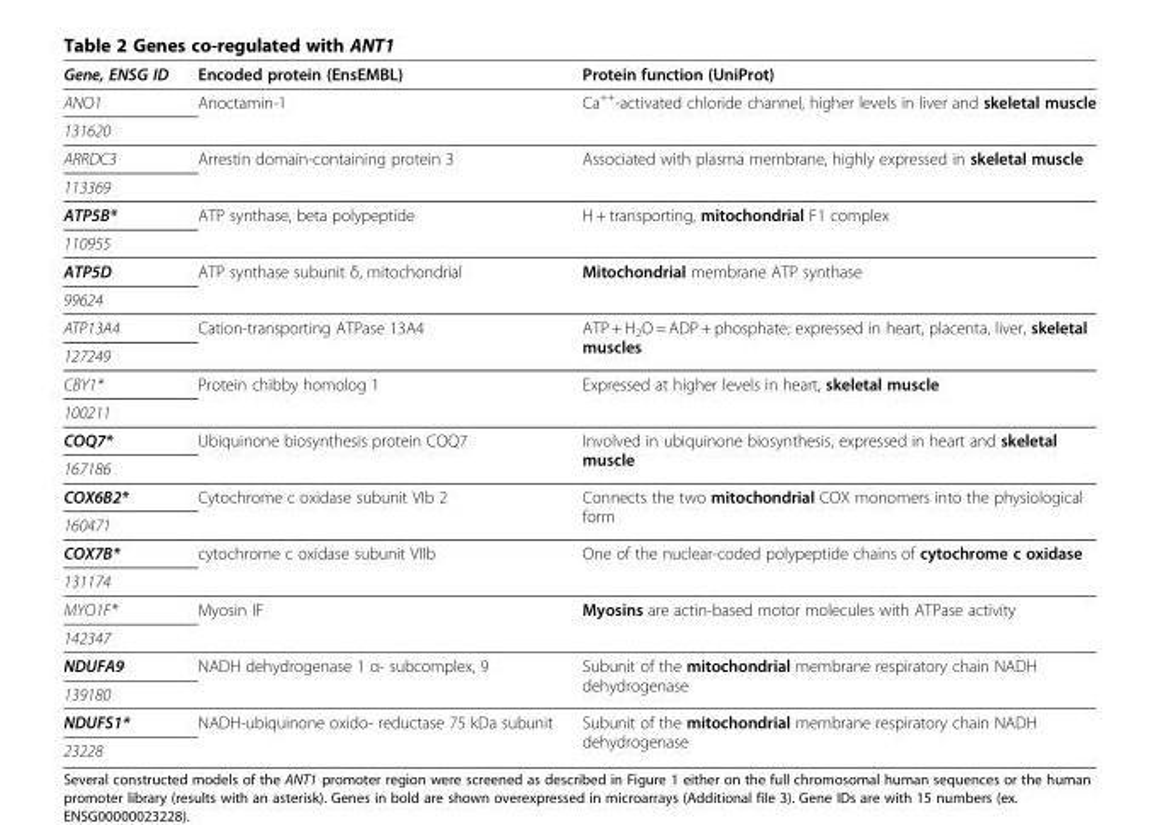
<table><thead><tr><td>Gene, ENSG ID</td><td>Encoded protein (EnsEMBL)</td><td>Protein function (UniProt)</td></tr></thead><tbody><tr><td>ANO1</td><td>Anoctamin-1</td><td rowspan="2">Ca<sup>++</sup>-activated chloride channel, higher levels in liver and skeletal muscle</td></tr><tr><td colspan="2">131620</td></tr><tr><td>ARRDC3</td><td>Arrestin domain-containing protein 3</td><td rowspan="2">Associated with plasma membrane, highly expressed in skeletal muscle</td></tr><tr><td colspan="2">113369</td></tr><tr><td>ATP5B*</td><td>ATP synthase, beta polypeptide</td><td rowspan="2">H + transporting, mitochondrial F1 complex</td></tr><tr><td colspan="2">110955</td></tr><tr><td>ATP5D</td><td>ATP synthase subunit δ, mitochondrial</td><td rowspan="2">Mitochondrial membrane ATP synthase</td></tr><tr><td colspan="2">99624</td></tr><tr><td>ATP13A4</td><td>Cation-transporting ATPase 13A4</td><td rowspan="2">ATP + H<sub>2</sub>O = ADP + phosphate; expressed in heart, placenta, liver, skeletal muscles</td></tr><tr><td colspan="2">127249</td></tr><tr><td>CBY1*</td><td>Protein chibby homolog 1</td><td rowspan="2">Expressed at higher levels in heart, skeletal muscle</td></tr><tr><td colspan="2">100211</td></tr><tr><td>COQ7*</td><td>Ubiquinone biosynthesis protein COQ7</td><td rowspan="2">Involved in ubiquinone biosynthesis, expressed in heart and skeletal muscle</td></tr><tr><td colspan="2">167186</td></tr><tr><td>COX6B2*</td><td>Cytochrome c oxidase subunit VIb 2</td><td rowspan="2">Connects the two mitochondrial COX monomers into the physiological form</td></tr><tr><td colspan="2">160471</td></tr><tr><td>COX7B*</td><td>cytochrome c oxidase subunit VIIb</td><td rowspan="2">One of the nuclear-coded polypeptide chains of cytochrome c oxidase</td></tr><tr><td colspan="2">131174</td></tr><tr><td>MYO1F*</td><td>Myosin IF</td><td rowspan="2">Myosins are actin-based motor molecules with ATPase activity</td></tr><tr><td colspan="2">142347</td></tr><tr><td>NDUFA9</td><td>NADH dehydrogenase 1 α- subcomplex, 9</td><td rowspan="2">Subunit of the mitochondrial membrane respiratory chain NADH dehydrogenase</td></tr><tr><td colspan="2">139180</td></tr><tr><td>NDUFS1*</td><td>NADH-ubiquinone oxido- reductase 75 kDa subunit</td><td rowspan="2">Subunit of the mitochondrial membrane respiratory chain NADH dehydrogenase</td></tr><tr><td>23228</td><td></td></tr></tbody></table>